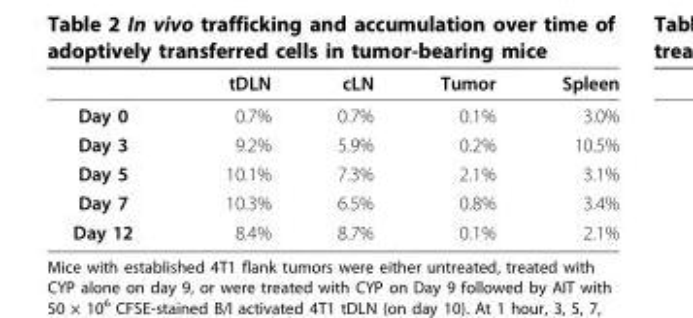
<table><thead><tr><td></td><td>tDLN</td><td>cLN</td><td>Tumor</td><td>Spleen</td></tr></thead><tbody><tr><td>Day 0</td><td>0.7%</td><td>0.7%</td><td>0.1%</td><td>3.0%</td></tr><tr><td>Day 3</td><td>9.2%</td><td>5.9%</td><td>0.2%</td><td>10.5%</td></tr><tr><td>Day 5</td><td>10.1%</td><td>7.3%</td><td>2.1%</td><td>3.1%</td></tr><tr><td>Day 7</td><td>10.3%</td><td>6.5%</td><td>0.8%</td><td>3.4%</td></tr><tr><td>Day 12</td><td>8.4%</td><td>8.7%</td><td>0.1%</td><td>2.1%</td></tr></tbody></table>